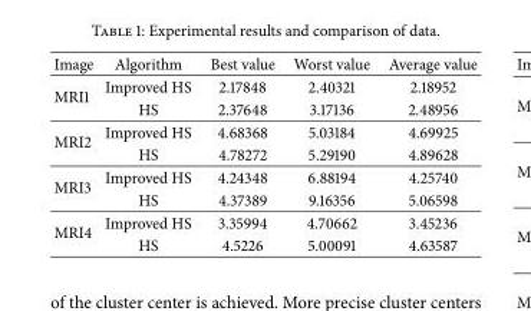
<table><thead><tr><td>Image</td><td>Algorithm</td><td>Best value</td><td>Worst value</td><td>Average value</td></tr></thead><tbody><tr><td rowspan="2">MRI1</td><td>Improved HS</td><td>2.17848</td><td>2.40321</td><td>2.18952</td></tr><tr><td>HS</td><td>2.37648</td><td>3.17136</td><td>2.48956</td></tr><tr><td rowspan="2">MRI2</td><td>Improved HS</td><td>4.68368</td><td>5.03184</td><td>4.69925</td></tr><tr><td>HS</td><td>4.78272</td><td>5.29190</td><td>4.89628</td></tr><tr><td rowspan="2">MRI3</td><td>Improved HS</td><td>4.24348</td><td>6.88194</td><td>4.25740</td></tr><tr><td>HS</td><td>4.37389</td><td>9.16356</td><td>5.06598</td></tr><tr><td rowspan="2">MRI4</td><td>Improved HS</td><td>3.35994</td><td>4.70662</td><td>3.45236</td></tr><tr><td>HS</td><td>4.5226</td><td>5.00091</td><td>4.63587</td></tr></tbody></table>